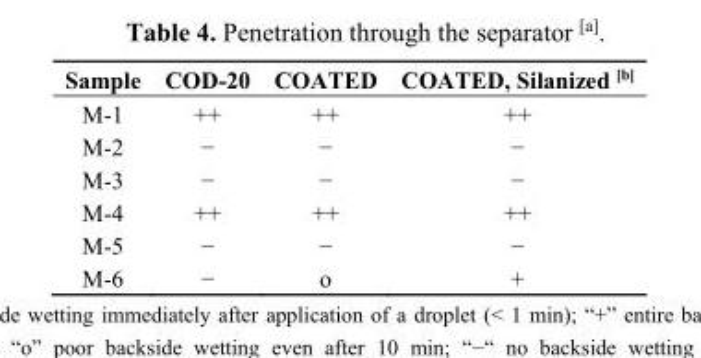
<table><thead><tr><td>Sample</td><td>COD-20</td><td>COATED</td><td>COATED, Silanized <sup>[b]</sup></td></tr></thead><tbody><tr><td>M-1</td><td>++</td><td>++</td><td>++</td></tr><tr><td>M-2</td><td>−</td><td>−</td><td>−</td></tr><tr><td>M-3</td><td>−</td><td>−</td><td>−</td></tr><tr><td>M-4</td><td>++</td><td>++</td><td>++</td></tr><tr><td>M-5</td><td>−</td><td>−</td><td>−</td></tr><tr><td>M-6</td><td>−</td><td>o</td><td>+</td></tr></tbody></table>